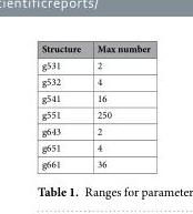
<table><thead><tr><td>Structure</td><td>Max number</td></tr></thead><tbody><tr><td>g531</td><td>2</td></tr><tr><td>g532</td><td>4</td></tr><tr><td>g541</td><td>16</td></tr><tr><td>g551</td><td>250</td></tr><tr><td>g643</td><td>2</td></tr><tr><td>g651</td><td>4</td></tr><tr><td>g661</td><td>36</td></tr></tbody></table>